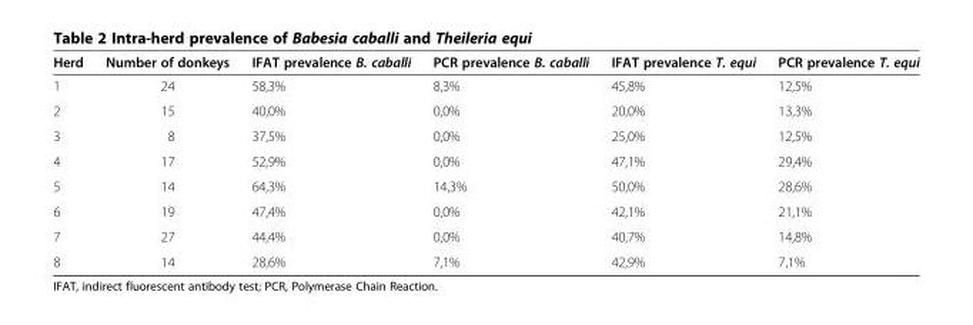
<table><thead><tr><td>Herd</td><td>Number of donkeys</td><td>IFAT prevalence B. caballi</td><td>PCR prevalence B. caballi</td><td>IFAT prevalence T. equi</td><td>PCR prevalence T. equi</td></tr></thead><tbody><tr><td>1</td><td>24</td><td>58,3%</td><td>8,3%</td><td>45,8%</td><td>12,5%</td></tr><tr><td>2</td><td>15</td><td>40,0%</td><td>0,0%</td><td>20,0%</td><td>13,3%</td></tr><tr><td>3</td><td>8</td><td>37,5%</td><td>0,0%</td><td>25,0%</td><td>12,5%</td></tr><tr><td>4</td><td>17</td><td>52,9%</td><td>0,0%</td><td>47,1%</td><td>29,4%</td></tr><tr><td>5</td><td>14</td><td>64,3%</td><td>14,3%</td><td>50,0%</td><td>28,6%</td></tr><tr><td>6</td><td>19</td><td>47,4%</td><td>0,0%</td><td>42,1%</td><td>21,1%</td></tr><tr><td>7</td><td>27</td><td>44,4%</td><td>0,0%</td><td>40,7%</td><td>14,8%</td></tr><tr><td>8</td><td>14</td><td>28,6%</td><td>7,1%</td><td>42,9%</td><td>7,1%</td></tr></tbody></table>